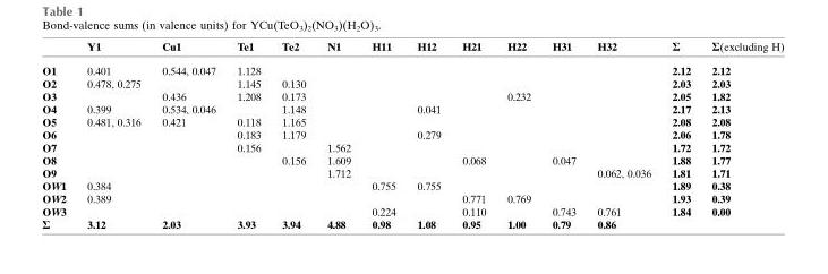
<table><thead><tr><td></td><td>Y1</td><td>Cu1</td><td>Te1</td><td>Te2</td><td>N1</td><td>H11</td><td>H12</td><td>H21</td><td>H22</td><td>H31</td><td>H32</td><td>Σ</td><td>Σ(excluding H)</td></tr></thead><tbody><tr><td>O1</td><td>0.401</td><td>0.544, 0.047</td><td>1.128</td><td></td><td></td><td></td><td></td><td></td><td></td><td></td><td></td><td>2.12</td><td>2.12</td></tr><tr><td>O2</td><td>0.478, 0.275</td><td></td><td>1.145</td><td>0.130</td><td></td><td></td><td></td><td></td><td></td><td></td><td></td><td>2.03</td><td>2.03</td></tr><tr><td>O3</td><td></td><td>0.436</td><td>1.208</td><td>0.173</td><td></td><td></td><td></td><td></td><td>0.232</td><td></td><td></td><td>2.05</td><td>1.82</td></tr><tr><td>O4</td><td>0.399</td><td>0.534, 0.046</td><td></td><td>1.148</td><td></td><td></td><td>0.041</td><td></td><td></td><td></td><td></td><td>2.17</td><td>2.13</td></tr><tr><td>O5</td><td>0.481, 0.316</td><td>0.421</td><td>0.118</td><td>1.165</td><td></td><td></td><td></td><td></td><td></td><td></td><td></td><td>2.08</td><td>2.08</td></tr><tr><td>O6</td><td></td><td></td><td>0.183</td><td>1.179</td><td></td><td></td><td>0.279</td><td></td><td></td><td></td><td></td><td>2.06</td><td>1.78</td></tr><tr><td>O7</td><td></td><td></td><td>0.156</td><td></td><td>1.562</td><td></td><td></td><td></td><td></td><td></td><td></td><td>1.72</td><td>1.72</td></tr><tr><td>O8</td><td></td><td></td><td></td><td>0.156</td><td>1.609</td><td></td><td></td><td>0.068</td><td></td><td>0.047</td><td></td><td>1.88</td><td>1.77</td></tr><tr><td>O9</td><td></td><td></td><td></td><td></td><td>1.712</td><td></td><td></td><td></td><td></td><td></td><td>0.062, 0.036</td><td>1.81</td><td>1.71</td></tr><tr><td>OW1</td><td>0.384</td><td></td><td></td><td></td><td></td><td>0.755</td><td>0.755</td><td></td><td></td><td></td><td></td><td>1.89</td><td>0.38</td></tr><tr><td>OW2</td><td>0.389</td><td></td><td></td><td></td><td></td><td></td><td></td><td>0.771</td><td>0.769</td><td></td><td></td><td>1.93</td><td>0.39</td></tr><tr><td>OW3</td><td></td><td></td><td></td><td></td><td></td><td>0.224</td><td></td><td>0.110</td><td></td><td>0.743</td><td>0.761</td><td>1.84</td><td>0.00</td></tr><tr><td>Σ</td><td>3.12</td><td>2.03</td><td>3.93</td><td>3.94</td><td>4.88</td><td>0.98</td><td>1.08</td><td>0.95</td><td>1.00</td><td>0.79</td><td>0.86</td><td></td><td></td></tr></tbody></table>